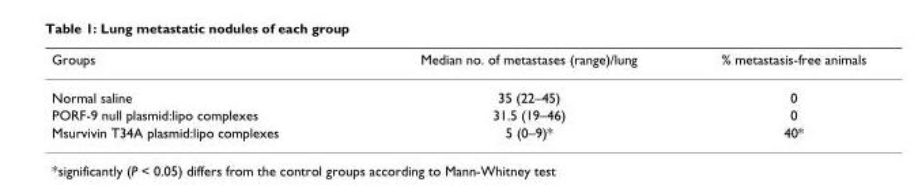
<table><thead><tr><td>Groups</td><td>Median no. of metastases (range)/lung</td><td>% metastasis-free animals</td></tr></thead><tbody><tr><td>Normal saline</td><td>35 (22–45)</td><td>0</td></tr><tr><td>PORF-9 null plasmid:lipo complexes</td><td>31.5 (19–46)</td><td>0</td></tr><tr><td>Msurvivin T34A plasmid:lipo complexes</td><td>5 (0–9)*</td><td>40*</td></tr></tbody></table>